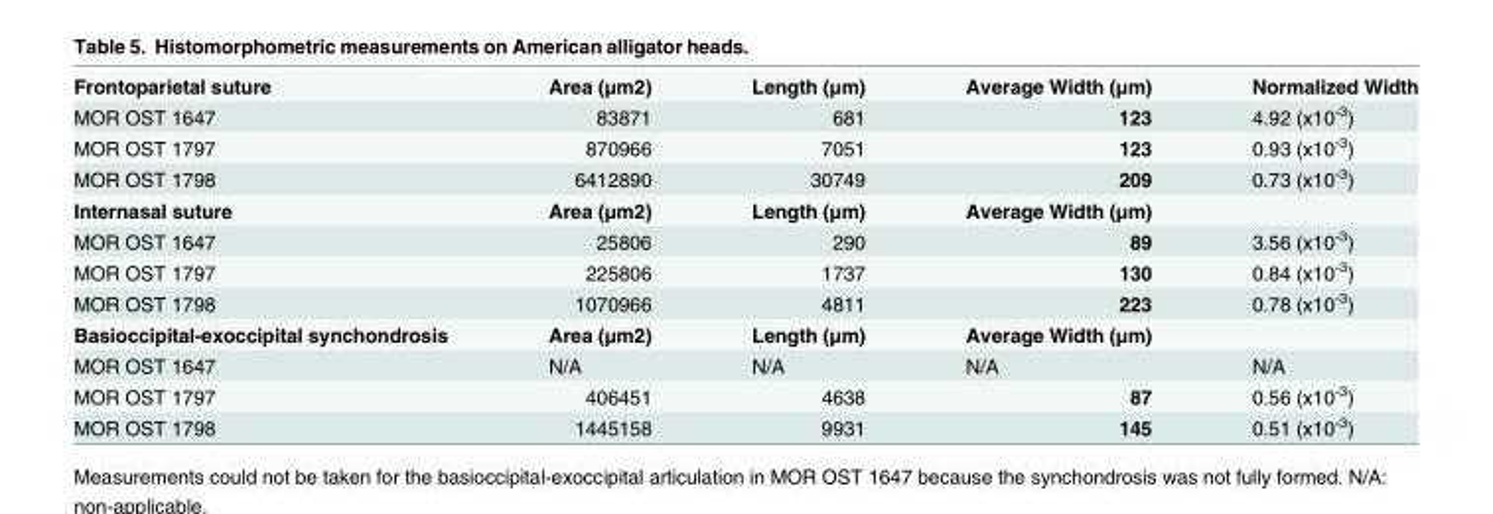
<table><tbody><tr><td>Frontoparietal suture</td><td>Area (μm2)</td><td>Length (μm)</td><td>Average Width (μm)</td><td>Normalized Width</td></tr><tr><td>MOR OST 1647</td><td>83871</td><td>681</td><td>123</td><td>4.92 (x10<sup>-3</sup>)</td></tr><tr><td>MOR OST 1797</td><td>870966</td><td>7051</td><td>123</td><td>0.93 (x10<sup>-3</sup>)</td></tr><tr><td>MOR OST 1798</td><td>6412890</td><td>30749</td><td>209</td><td>0.73 (x10<sup>-3</sup>)</td></tr><tr><td>Internasal suture</td><td>Area (μm2)</td><td>Length (μm)</td><td>Average Width (μm)</td><td></td></tr><tr><td>MOR OST 1647</td><td>25806</td><td>290</td><td>89</td><td>3.56 (x10<sup>-3</sup>)</td></tr><tr><td>MOR OST 1797</td><td>225806</td><td>1737</td><td>130</td><td>0.84 (x10<sup>-3</sup>)</td></tr><tr><td>MOR OST 1798</td><td>1070966</td><td>4811</td><td>223</td><td>0.78 (x10<sup>-3</sup>)</td></tr><tr><td>Basioccipital-exoccipital synchondrosis</td><td>Area (μm2)</td><td>Length (μm)</td><td>Average Width (μm)</td><td></td></tr><tr><td>MOR OST 1647</td><td>N/A</td><td>N/A</td><td>N/A</td><td>N/A</td></tr><tr><td>MOR OST 1797</td><td>406451</td><td>4638</td><td>87</td><td>0.56 (x10<sup>-3</sup>)</td></tr><tr><td>MOR OST 1798</td><td>1445158</td><td>9931</td><td>145</td><td>0.51 (x10<sup>-3</sup>)</td></tr></tbody></table>